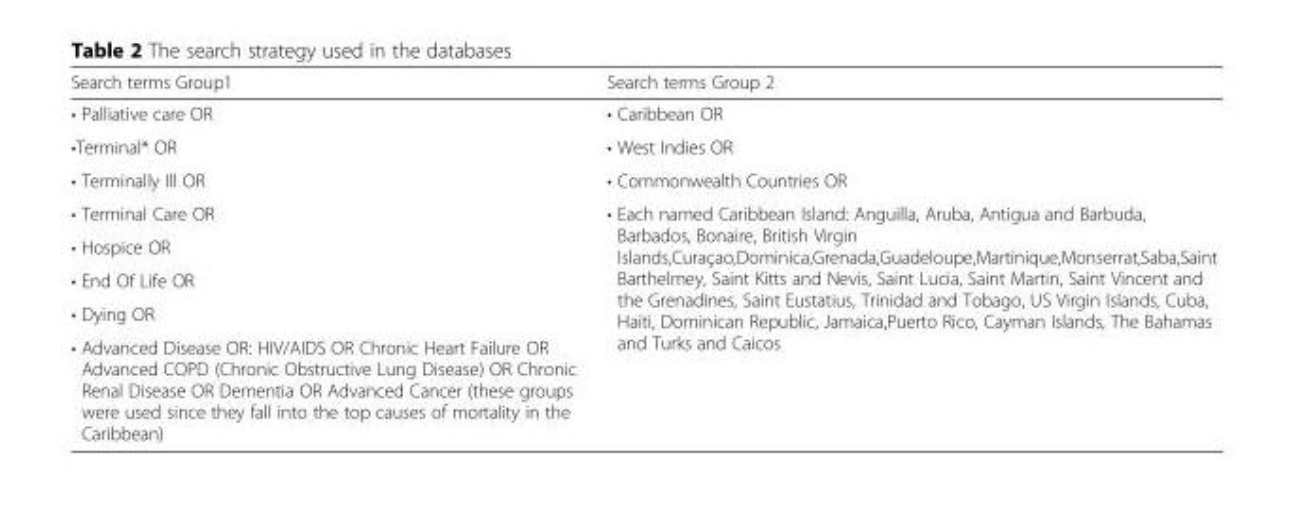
<table><thead><tr><td>Search terms Group1</td><td>Search terms Group 2</td></tr></thead><tbody><tr><td>• Palliative care OR</td><td>• Caribbean OR</td></tr><tr><td>•Terminal* OR</td><td>• West Indies OR</td></tr><tr><td>• Terminally Ill OR</td><td>• Commonwealth Countries OR</td></tr><tr><td>• Terminal Care OR</td><td rowspan="5">• Each named Caribbean Island: Anguilla, Aruba, Antigua and Barbuda, Barbados, Bonaire, British Virgin Islands,Curaçao,Dominica,Grenada,Guadeloupe,Martinique,Monserrat,Saba,Saint Barthelmey, Saint Kitts and Nevis, Saint Lucia, Saint Martin, Saint Vincent and the Grenadines, Saint Eustatius, Trinidad and Tobago, US Virgin Islands, Cuba, Haiti, Dominican Republic, Jamaica,Puerto Rico, Cayman Islands, The Bahamas and Turks and Caicos</td></tr><tr><td>• Hospice OR</td></tr><tr><td>• End Of Life OR</td></tr><tr><td>• Dying OR</td></tr><tr><td>• Advanced Disease OR: HIV/AIDS OR Chronic Heart Failure OR Advanced COPD (Chronic Obstructive Lung Disease) OR Chronic Renal Disease OR Dementia OR Advanced Cancer (these groups were used since they fall into the top causes of mortality in the Caribbean)</td></tr></tbody></table>